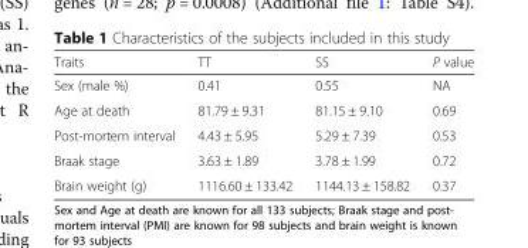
<table><thead><tr><td>Traits</td><td>TT</td><td>SS</td><td>P value</td></tr></thead><tbody><tr><td>Sex (male %)</td><td>0.41</td><td>0.55</td><td>NA</td></tr><tr><td>Age at death</td><td>81.79 ± 9.31</td><td>81.15 ± 9.10</td><td>0.69</td></tr><tr><td>Post-mortem interval</td><td>4.43 ± 5.95</td><td>5.29 ± 7.39</td><td>0.53</td></tr><tr><td>Braak stage</td><td>3.63 ± 1.89</td><td>3.78 ± 1.99</td><td>0.72</td></tr><tr><td>Brain weight (g)</td><td>1116.60 ± 133.42</td><td>1144.13 ± 158.82</td><td>0.37</td></tr></tbody></table>